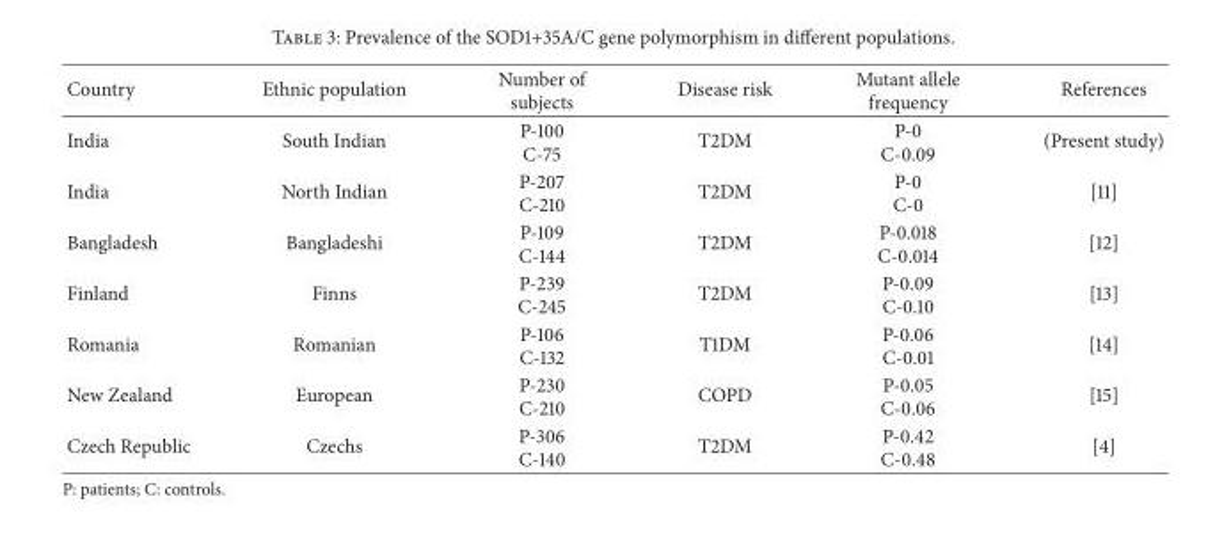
<table><thead><tr><td>Country</td><td>Ethnic population</td><td>Number of subjects</td><td>Disease risk</td><td>Mutant allele frequency</td><td>References</td></tr></thead><tbody><tr><td>India</td><td>South Indian</td><td>P-100 C-75</td><td>T2DM</td><td>P-0 C-0.09</td><td>(Present study)</td></tr><tr><td>India</td><td>North Indian</td><td>P-207 C-210</td><td>T2DM</td><td>P-0 C-0</td><td>[11]</td></tr><tr><td>Bangladesh</td><td>Bangladeshi</td><td>P-109 C-144</td><td>T2DM</td><td>P-0.018 C-0.014</td><td>[12]</td></tr><tr><td>Finland</td><td>Finns</td><td>P-239 C-245</td><td>T2DM</td><td>P-0.09 C-0.10</td><td>[13]</td></tr><tr><td>Romania</td><td>Romanian</td><td>P-106 C-132</td><td>T1DM</td><td>P-0.06 C-0.01</td><td>[14]</td></tr><tr><td>New Zealand</td><td>European</td><td>P-230 C-210</td><td>COPD</td><td>P-0.05 C-0.06</td><td>[15]</td></tr><tr><td>Czech Republic</td><td>Czechs</td><td>P-306 C-140</td><td>T2DM</td><td>P-0.42 C-0.48</td><td>[4]</td></tr></tbody></table>